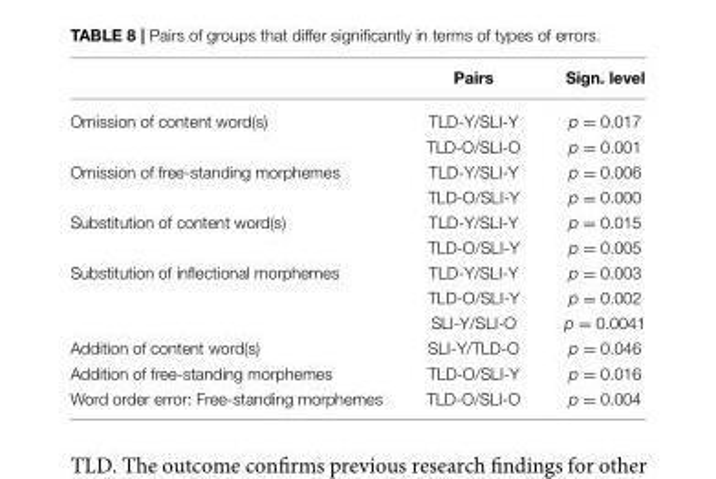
<table><thead><tr><td></td><td>Pairs</td><td>Sign. level</td></tr></thead><tbody><tr><td rowspan="2">Omission of content word(s)</td><td>TLD-Y/SLI-Y</td><td>p = 0.017</td></tr><tr><td>TLD-O/SLI-O</td><td>p = 0.001</td></tr><tr><td rowspan="2">Omission of free-standing morphemes</td><td>TLD-Y/SLI-Y</td><td>p = 0.006</td></tr><tr><td>TLD-O/SLI-Y</td><td>p = 0.000</td></tr><tr><td rowspan="2">Substitution of content word(s)</td><td>TLD-Y/SLI-Y</td><td>p = 0.015</td></tr><tr><td>TLD-O/SLI-Y</td><td>p = 0.005</td></tr><tr><td rowspan="3">Substitution of inflectional morphemes</td><td>TLD-Y/SLI-Y</td><td>p = 0.003</td></tr><tr><td>TLD-O/SLI-Y</td><td>p = 0.002</td></tr><tr><td>SLI-Y/SLI-O</td><td>p = 0.0041</td></tr><tr><td>Addition of content word(s)</td><td>SLI-Y/TLD-O</td><td>p = 0.046</td></tr><tr><td>Addition of free-standing morphemes</td><td>TLD-O/SLI-Y</td><td>p = 0.016</td></tr><tr><td>Word order error: Free-standing morphemes</td><td>TLD-O/SLI-O</td><td>p = 0.004</td></tr></tbody></table>